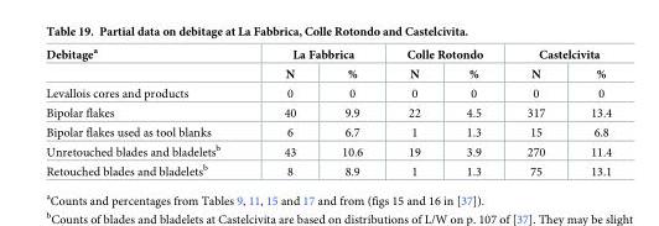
<table><thead><tr><td rowspan="2">Debitage<sup>a</sup></td><td colspan="2">La Fabbrica</td><td colspan="2">Colle Rotondo</td><td colspan="2">Castelcivita</td></tr><tr><td>N</td><td>%</td><td>N</td><td>%</td><td>N</td><td>%</td></tr></thead><tbody><tr><td>Levallois cores and products</td><td>0</td><td>0</td><td>0</td><td>0</td><td>0</td><td>0</td></tr><tr><td>Bipolar flakes</td><td>40</td><td>9.9</td><td>22</td><td>4.5</td><td>317</td><td>13.4</td></tr><tr><td>Bipolar flakes used as tool blanks</td><td>6</td><td>6.7</td><td>1</td><td>1.3</td><td>15</td><td>6.8</td></tr><tr><td>Unretouched blades and bladelets<sup>b</sup></td><td>43</td><td>10.6</td><td>19</td><td>3.9</td><td>270</td><td>11.4</td></tr><tr><td>Retouched blades and bladelets<sup>b</sup></td><td>8</td><td>8.9</td><td>1</td><td>1.3</td><td>75</td><td>13.1</td></tr></tbody></table>